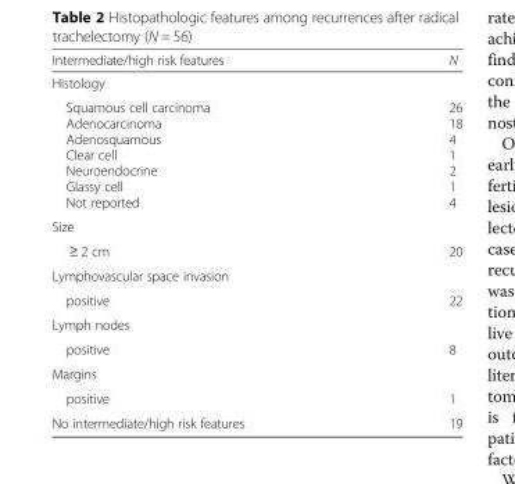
<table><thead><tr><td>Intermediate/high risk features</td><td>N</td></tr></thead><tbody><tr><td colspan="2">Histology</td></tr><tr><td>Squamous cell carcinoma Adenocarcinoma Adenosquamous Clear cell Neuroendocrine Glassy cell Not reported</td><td>26 18 4 1 2 1 4</td></tr><tr><td colspan="2">Size</td></tr><tr><td>≥ 2 cm</td><td>20</td></tr><tr><td colspan="2">Lymphovascular space invasion</td></tr><tr><td>positive</td><td>22</td></tr><tr><td colspan="2">Lymph nodes</td></tr><tr><td>positive</td><td>8</td></tr><tr><td colspan="2">Margins</td></tr><tr><td>positive</td><td>1</td></tr><tr><td>No intermediate/high risk features</td><td>19</td></tr></tbody></table>